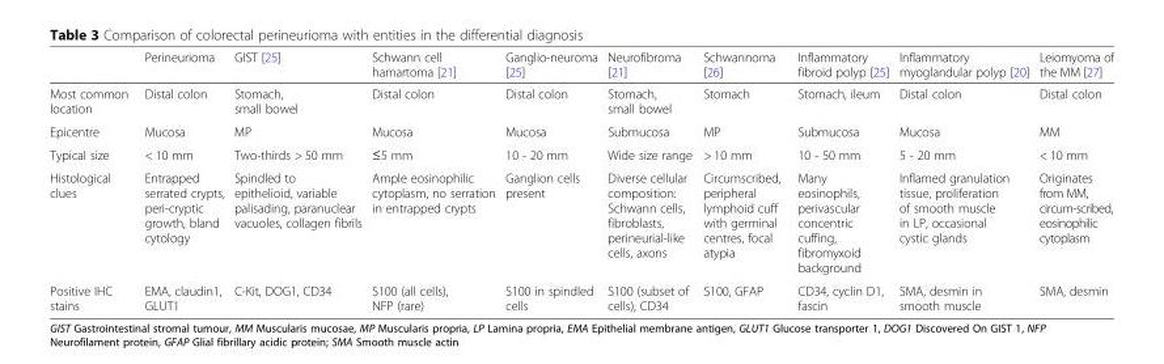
<table><thead><tr><td></td><td>Perineurioma</td><td>GIST [25]</td><td>Schwann cell hamartoma [21]</td><td>Ganglio-neuroma [25]</td><td>Neurofibroma [21]</td><td>Schwannoma [26]</td><td>Inflammatory fibroid polyp [25]</td><td>Inflammatory myoglandular polyp [20]</td><td>Leiomyoma of the MM [27]</td></tr></thead><tbody><tr><td>Most common location</td><td>Distal colon</td><td>Stomach, small bowel</td><td>Distal colon</td><td>Distal colon</td><td>Stomach, small bowel</td><td>Stomach</td><td>Stomach, ileum</td><td>Distal colon</td><td>Distal colon</td></tr><tr><td>Epicentre</td><td>Mucosa</td><td>MP</td><td>Mucosa</td><td>Mucosa</td><td>Submucosa</td><td>MP</td><td>Submucosa</td><td>Mucosa</td><td>MM</td></tr><tr><td>Typical size</td><td>&lt; 10 mm</td><td>Two-thirds &gt; 50 mm</td><td>≤5 mm</td><td>10 - 20 mm</td><td>Wide size range</td><td>&gt; 10 mm</td><td>10 - 50 mm</td><td>5 - 20 mm</td><td>&lt; 10 mm</td></tr><tr><td>Histological clues</td><td>Entrapped serrated crypts, peri-cryptic growth, bland cytology</td><td>Spindled to epithelioid, variable palisading, paranuclear vacuoles, collagen fibrils</td><td>Ample eosinophilic cytoplasm, no serration in entrapped crypts</td><td>Ganglion cells present</td><td>Diverse cellular composition: Schwann cells, fibroblasts, perineurial-like cells, axons</td><td>Circumscribed, peripheral lymphoid cuff with germinal centres, focal atypia</td><td>Many eosinophils, perivascular concentric cuffing, fibromyxoid background</td><td>Inflamed granulation tissue, proliferation of smooth muscle in LP, occasional cystic glands</td><td>Originates from MM, circum-scribed, eosinophilic cytoplasm</td></tr><tr><td>Positive IHC stains</td><td>EMA, claudin1, GLUT1</td><td>C-Kit, DOG1, CD34</td><td>S100 (all cells), NFP (rare)</td><td>S100 in spindled cells</td><td>S100 (subset of cells), CD34</td><td>S100, GFAP</td><td>CD34, cyclin D1, fascin</td><td>SMA, desmin in smooth muscle</td><td>SMA, desmin</td></tr></tbody></table>